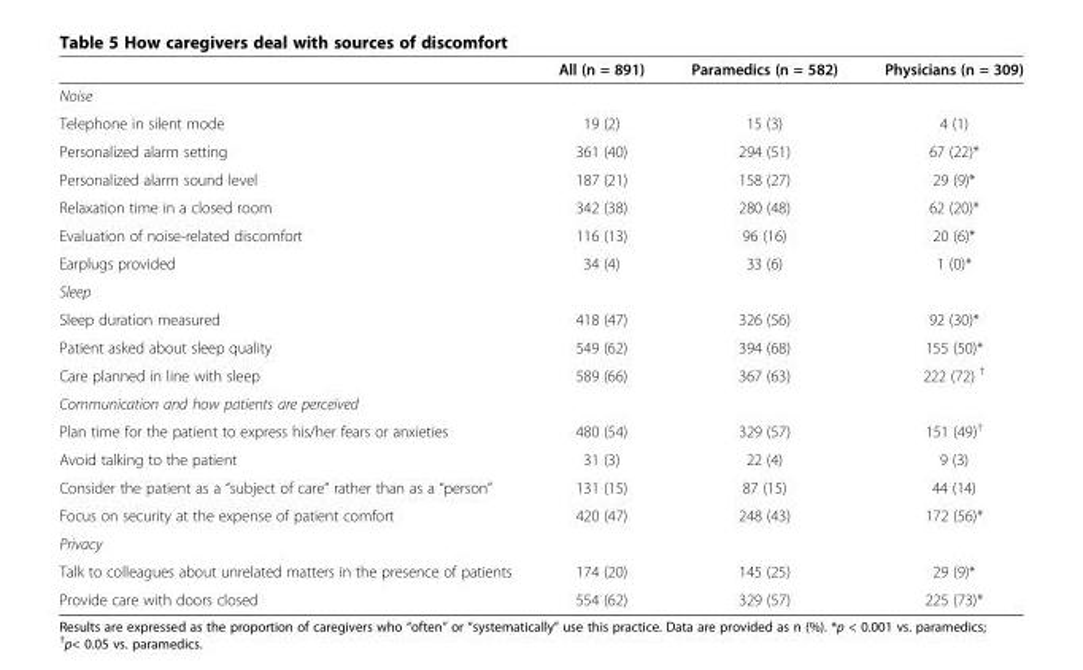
<table><thead><tr><td></td><td>All (n = 891)</td><td>Paramedics (n = 582)</td><td>Physicians (n = 309)</td></tr></thead><tbody><tr><td colspan="4">Noise</td></tr><tr><td>Telephone in silent mode</td><td>19 (2)</td><td>15 (3)</td><td>4 (1)</td></tr><tr><td>Personalized alarm setting</td><td>361 (40)</td><td>294 (51)</td><td>67 (22)*</td></tr><tr><td>Personalized alarm sound level</td><td>187 (21)</td><td>158 (27)</td><td>29 (9)*</td></tr><tr><td>Relaxation time in a closed room</td><td>342 (38)</td><td>280 (48)</td><td>62 (20)*</td></tr><tr><td>Evaluation of noise-related discomfort</td><td>116 (13)</td><td>96 (16)</td><td>20 (6)*</td></tr><tr><td>Earplugs provided</td><td>34 (4)</td><td>33 (6)</td><td>1 (0)*</td></tr><tr><td colspan="4">Sleep</td></tr><tr><td>Sleep duration measured</td><td>418 (47)</td><td>326 (56)</td><td>92 (30)*</td></tr><tr><td>Patient asked about sleep quality</td><td>549 (62)</td><td>394 (68)</td><td>155 (50)*</td></tr><tr><td>Care planned in line with sleep</td><td>589 (66)</td><td>367 (63)</td><td>222 (72) <sup>†</sup></td></tr><tr><td colspan="4">Communication and how patients are perceived</td></tr><tr><td>Plan time for the patient to express his/her fears or anxieties</td><td>480 (54)</td><td>329 (57)</td><td>151 (49)<sup>†</sup></td></tr><tr><td>Avoid talking to the patient</td><td>31 (3)</td><td>22 (4)</td><td>9 (3)</td></tr><tr><td>Consider the patient as a “subject of care” rather than as a “person”</td><td>131 (15)</td><td>87 (15)</td><td>44 (14)</td></tr><tr><td>Focus on security at the expense of patient comfort</td><td>420 (47)</td><td>248 (43)</td><td>172 (56)*</td></tr><tr><td colspan="4">Privacy</td></tr><tr><td>Talk to colleagues about unrelated matters in the presence of patients</td><td>174 (20)</td><td>145 (25)</td><td>29 (9)*</td></tr><tr><td>Provide care with doors closed</td><td>554 (62)</td><td>329 (57)</td><td>225 (73)*</td></tr></tbody></table>